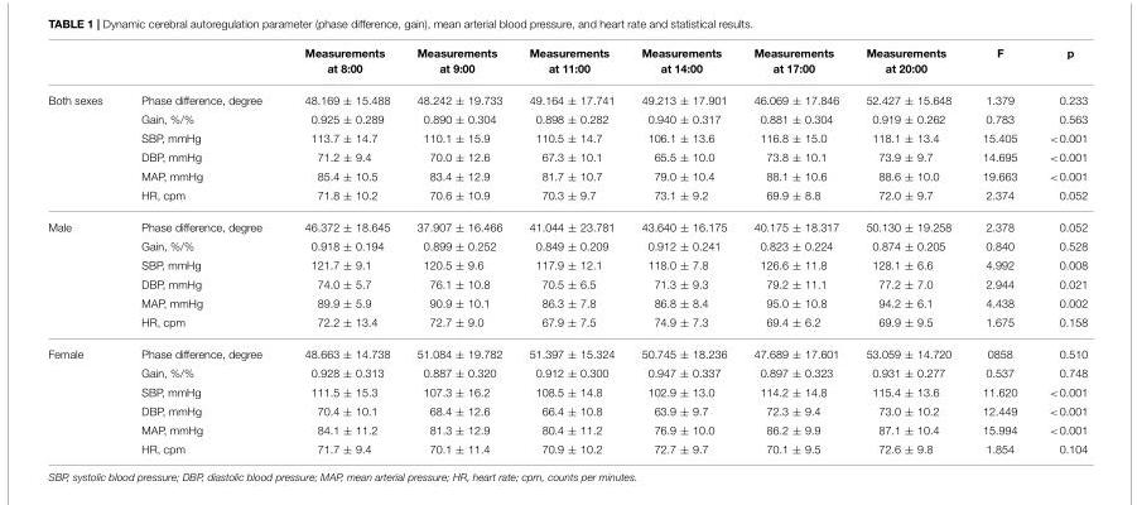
<table><thead><tr><td></td><td></td><td>Measurements at 8:00</td><td>Measurements at 9:00</td><td>Measurements at 11:00</td><td>Measurements at 14:00</td><td>Measurements at 17:00</td><td>Measurements at 20:00</td><td>F</td><td>p</td></tr></thead><tbody><tr><td rowspan="6">Both sexes</td><td>Phase difference, degree</td><td>48.169 ± 15.488</td><td>48.242 ± 19.733</td><td>49.164 ± 17.741</td><td>49.213 ± 17.901</td><td>46.069 ± 17.846</td><td>52.427 ± 15.648</td><td>1.379</td><td>0.233</td></tr><tr><td>Gain, %/%</td><td>0.925 ± 0.289</td><td>0.890 ± 0.304</td><td>0.898 ± 0.282</td><td>0.940 ± 0.317</td><td>0.881 ± 0.304</td><td>0.919 ± 0.262</td><td>0.783</td><td>0.563</td></tr><tr><td>SBP, mmHg</td><td>113.7 ± 14.7</td><td>110.1 ± 15.9</td><td>110.5 ± 14.7</td><td>106.1 ± 13.6</td><td>116.8 ± 15.0</td><td>118.1 ± 13.4</td><td>15.405</td><td>&lt;0.001</td></tr><tr><td>DBP, mmHg</td><td>71.2 ± 9.4</td><td>70.0 ± 12.6</td><td>67.3 ± 10.1</td><td>65.5 ± 10.0</td><td>73.8 ± 10.1</td><td>73.9 ± 9.7</td><td>14.695</td><td>&lt;0.001</td></tr><tr><td>MAP, mmHg</td><td>85.4 ± 10.5</td><td>83.4 ± 12.9</td><td>81.7 ± 10.7</td><td>79.0 ± 10.4</td><td>88.1 ± 10.6</td><td>88.6 ± 10.0</td><td>19.663</td><td>&lt;0.001</td></tr><tr><td>HR, cpm</td><td>71.8 ± 10.2</td><td>70.6 ± 10.9</td><td>70.3 ± 9.7</td><td>73.1 ± 9.2</td><td>69.9 ± 8.8</td><td>72.0 ± 9.7</td><td>2.374</td><td>0.052</td></tr><tr><td rowspan="6">Male</td><td>Phase difference, degree</td><td>46.372 ± 18.645</td><td>37.907 ± 16.466</td><td>41.044 ± 23.781</td><td>43.640 ± 16.175</td><td>40.175 ± 18.317</td><td>50.130 ± 19.258</td><td>2.378</td><td>0.052</td></tr><tr><td>Gain, %/%</td><td>0.918 ± 0.194</td><td>0.899 ± 0.252</td><td>0.849 ± 0.209</td><td>0.912 ± 0.241</td><td>0.823 ± 0.224</td><td>0.874 ± 0.205</td><td>0.840</td><td>0.528</td></tr><tr><td>SBP, mmHg</td><td>121.7 ± 9.1</td><td>120.5 ± 9.6</td><td>117.9 ± 12.1</td><td>118.0 ± 7.8</td><td>126.6 ± 11.8</td><td>128.1 ± 6.6</td><td>4.992</td><td>0.008</td></tr><tr><td>DBP, mmHg</td><td>74.0 ± 5.7</td><td>76.1 ± 10.8</td><td>70.5 ± 6.5</td><td>71.3 ± 9.3</td><td>79.2 ± 11.1</td><td>77.2 ± 7.0</td><td>2.944</td><td>0.021</td></tr><tr><td>MAP, mmHg</td><td>89.9 ± 5.9</td><td>90.9 ± 10.1</td><td>86.3 ± 7.8</td><td>86.8 ± 8.4</td><td>95.0 ± 10.8</td><td>94.2 ± 6.1</td><td>4.438</td><td>0.002</td></tr><tr><td>HR, cpm</td><td>72.2 ± 13.4</td><td>72.7 ± 9.0</td><td>67.9 ± 7.5</td><td>74.9 ± 7.3</td><td>69.4 ± 6.2</td><td>69.9 ± 9.5</td><td>1.675</td><td>0.158</td></tr><tr><td rowspan="6">Female</td><td>Phase difference, degree</td><td>48.663 ± 14.738</td><td>51.084 ± 19.782</td><td>51.397 ± 15.324</td><td>50.745 ± 18.236</td><td>47.689 ± 17.601</td><td>53.059 ± 14.720</td><td>0858</td><td>0.510</td></tr><tr><td>Gain, %/%</td><td>0.928 ± 0.313</td><td>0.887 ± 0.320</td><td>0.912 ± 0.300</td><td>0.947 ± 0.337</td><td>0.897 ± 0.323</td><td>0.931 ± 0.277</td><td>0.537</td><td>0.748</td></tr><tr><td>SBP, mmHg</td><td>111.5 ± 15.3</td><td>107.3 ± 16.2</td><td>108.5 ± 14.8</td><td>102.9 ± 13.0</td><td>114.2 ± 14.8</td><td>115.4 ± 13.6</td><td>11.620</td><td>&lt;0.001</td></tr><tr><td>DBP, mmHg</td><td>70.4 ± 10.1</td><td>68.4 ± 12.6</td><td>66.4 ± 10.8</td><td>63.9 ± 9.7</td><td>72.3 ± 9.4</td><td>73.0 ± 10.2</td><td>12.449</td><td>&lt;0.001</td></tr><tr><td>MAP, mmHg</td><td>84.1 ± 11.2</td><td>81.3 ± 12.9</td><td>80.4 ± 11.2</td><td>76.9 ± 10.0</td><td>86.2 ± 9.9</td><td>87.1 ± 10.4</td><td>15.994</td><td>&lt;0.001</td></tr><tr><td>HR, cpm</td><td>71.7 ± 9.4</td><td>70.1 ± 11.4</td><td>70.9 ± 10.2</td><td>72.7 ± 9.7</td><td>70.1 ± 9.5</td><td>72.6 ± 9.8</td><td>1.854</td><td>0.104</td></tr></tbody></table>